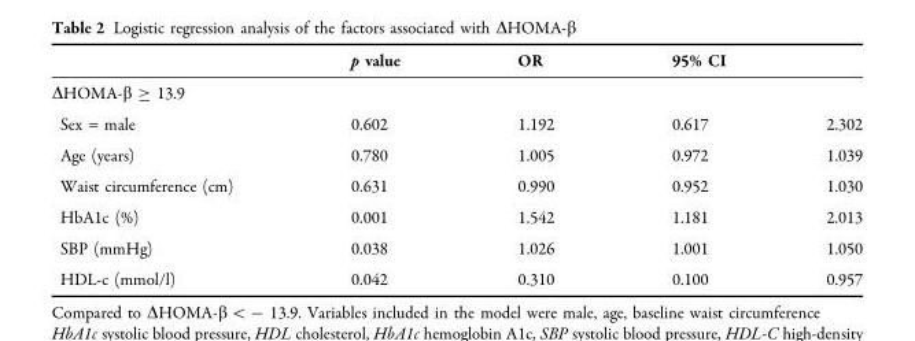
<table><thead><tr><td></td><td>p value</td><td>OR</td><td colspan="2">95% CI</td></tr><tr><td colspan="5">∆HOMA-β ≥ 13.9</td></tr><tr><td>Sex = male</td><td>0.602</td><td>1.192</td><td>0.617</td><td>2.302</td></tr></thead><tbody><tr><td>Age (years)</td><td>0.780</td><td>1.005</td><td>0.972</td><td>1.039</td></tr><tr><td>Waist circumference (cm)</td><td>0.631</td><td>0.990</td><td>0.952</td><td>1.030</td></tr><tr><td>HbA1c (%)</td><td>0.001</td><td>1.542</td><td>1.181</td><td>2.013</td></tr><tr><td>SBP (mmHg)</td><td>0.038</td><td>1.026</td><td>1.001</td><td>1.050</td></tr><tr><td>HDL-c (mmol/l)</td><td>0.042</td><td>0.310</td><td>0.100</td><td>0.957</td></tr></tbody></table>